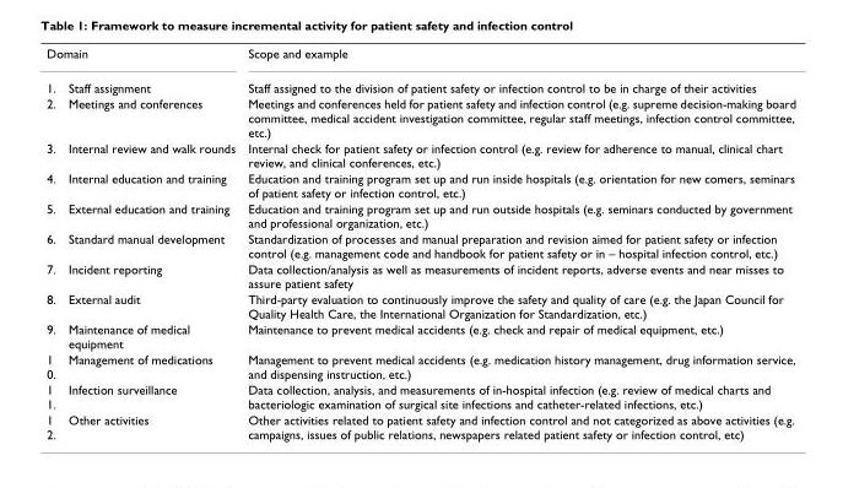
<table><tbody><tr><td colspan="2">Domain</td><td>Scope and example</td></tr><tr><td>1.</td><td>Staff assignment</td><td>Staff assigned to the division of patient safety or infection control to be in charge of their activities</td></tr><tr><td>2.</td><td>Meetings and conferences</td><td>Meetings and conferences held for patient safety and infection control (e.g. supreme decision-making board committee, medical accident investigation committee, regular staff meetings, infection control committee, etc.)</td></tr><tr><td>3.</td><td>Internal review and walk rounds</td><td>Internal check for patient safety or infection control (e.g. review for adherence to manual, clinical chart review, and clinical conferences, etc.)</td></tr><tr><td>4.</td><td>Internal education and training</td><td>Education and training program set up and run inside hospitals (e.g. orientation for new comers, seminars of patient safety or infection control, etc.)</td></tr><tr><td>5.</td><td>External education and training</td><td>Education and training program set up and run outside hospitals (e.g. seminars conducted by government and professional organization, etc.)</td></tr><tr><td>6.</td><td>Standard manual development</td><td>Standardization of processes and manual preparation and revision aimed for patient safety or infection control (e.g. management code and handbook for patient safety or in – hospital infection control, etc.)</td></tr><tr><td>7.</td><td>Incident reporting</td><td>Data collection/analysis as well as measurements of incident reports, adverse events and near misses to assure patient safety</td></tr><tr><td>8.</td><td>External audit</td><td>Third-party evaluation to continuously improve the safety and quality of care (e.g. the Japan Council for Quality Health Care, the International Organization for Standardization, etc.)</td></tr><tr><td>9.</td><td>Maintenance of medical equipment</td><td>Maintenance to prevent medical accidents (e.g. check and repair of medical equipment, etc.)</td></tr><tr><td>1 0.</td><td>Management of medications</td><td>Management to prevent medical accidents (e.g. medication history management, drug information service, and dispensing instruction, etc.)</td></tr><tr><td>1 1.</td><td>Infection surveillance</td><td>Data collection, analysis, and measurements of in-hospital infection (e.g. review of medical charts and bacteriologic examination of surgical site infections and catheter-related infections, etc.)</td></tr><tr><td>1 2.</td><td>Other activities</td><td>Other activities related to patient safety and infection control and not categorized as above activities (e.g. campaigns, issues of public relations, newspapers related patient safety or infection control, etc)</td></tr></tbody></table>